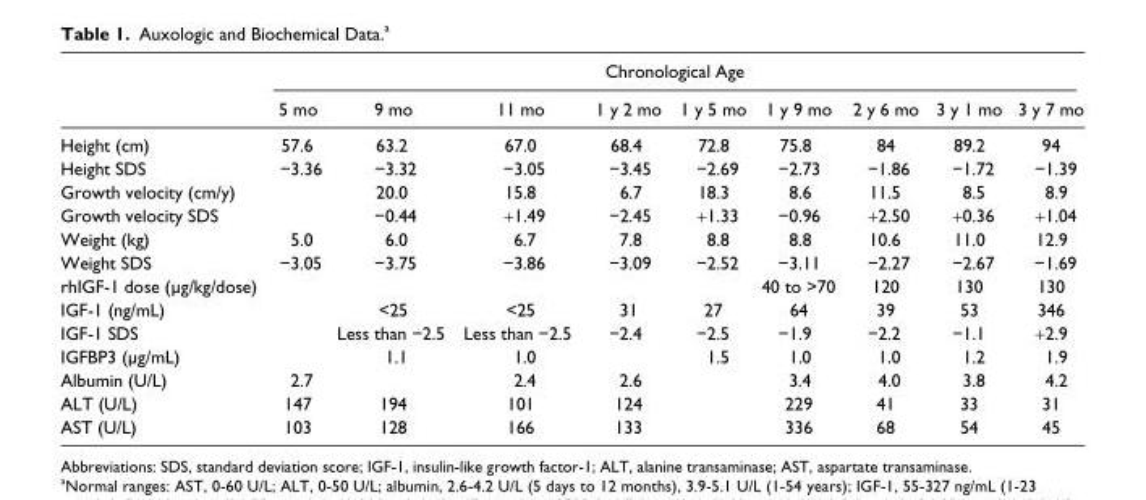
<table><thead><tr><td rowspan="2"></td><td colspan="9">Chronological Age</td></tr><tr><td>5 mo</td><td>9 mo</td><td>11 mo</td><td>1 y 2 mo</td><td>1 y 5 mo</td><td>1 y 9 mo</td><td>2 y 6 mo</td><td>3 y 1 mo</td><td>3 y 7 mo</td></tr></thead><tbody><tr><td>Height (cm)</td><td>57.6</td><td>63.2</td><td>67.0</td><td>68.4</td><td>72.8</td><td>75.8</td><td>84</td><td>89.2</td><td>94</td></tr><tr><td>Height SDS</td><td>−3.36</td><td>−3.32</td><td>−3.05</td><td>−3.45</td><td>−2.69</td><td>−2.73</td><td>−1.86</td><td>−1.72</td><td>−1.39</td></tr><tr><td>Growth velocity (cm/y)</td><td></td><td>20.0</td><td>15.8</td><td>6.7</td><td>18.3</td><td>8.6</td><td>11.5</td><td>8.5</td><td>8.9</td></tr><tr><td>Growth velocity SDS</td><td></td><td>−0.44</td><td>+1.49</td><td>−2.45</td><td>+1.33</td><td>−0.96</td><td>+2.50</td><td>+0.36</td><td>+1.04</td></tr><tr><td>Weight (kg)</td><td>5.0</td><td>6.0</td><td>6.7</td><td>7.8</td><td>8.8</td><td>8.8</td><td>10.6</td><td>11.0</td><td>12.9</td></tr><tr><td>Weight SDS</td><td>−3.05</td><td>−3.75</td><td>−3.86</td><td>−3.09</td><td>−2.52</td><td>−3.11</td><td>−2.27</td><td>−2.67</td><td>−1.69</td></tr><tr><td>rhIGF-1 dose (µg/kg/dose)</td><td></td><td></td><td></td><td></td><td></td><td>40 to &gt;70</td><td>120</td><td>130</td><td>130</td></tr><tr><td>IGF-1 (ng/mL)</td><td></td><td>&lt;25</td><td>&lt;25</td><td>31</td><td>27</td><td>64</td><td>39</td><td>53</td><td>346</td></tr><tr><td>IGF-1 SDS</td><td></td><td>Less than −2.5</td><td>Less than −2.5</td><td>−2.4</td><td>−2.5</td><td>−1.9</td><td>−2.2</td><td>−1.1</td><td>+2.9</td></tr><tr><td>IGFBP3 (µg/mL)</td><td></td><td>1.1</td><td>1.0</td><td></td><td>1.5</td><td>1.0</td><td>1.0</td><td>1.2</td><td>1.9</td></tr><tr><td>Albumin (U/L)</td><td>2.7</td><td></td><td>2.4</td><td>2.6</td><td></td><td>3.4</td><td>4.0</td><td>3.8</td><td>4.2</td></tr><tr><td>ALT (U/L)</td><td>147</td><td>194</td><td>101</td><td>124</td><td></td><td>229</td><td>41</td><td>33</td><td>31</td></tr><tr><td>AST (U/L)</td><td>103</td><td>128</td><td>166</td><td>133</td><td></td><td>336</td><td>68</td><td>54</td><td>45</td></tr></tbody></table>